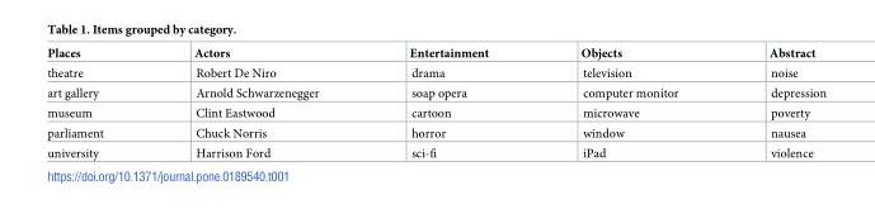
<table><thead><tr><td>Places</td><td>Actors</td><td>Entertainment</td><td>Objects</td><td>Abstract</td></tr></thead><tbody><tr><td>theatre</td><td>Robert De Niro</td><td>drama</td><td>television</td><td>noise</td></tr><tr><td>art gallery</td><td>Arnold Schwarzenegger</td><td>soap opera</td><td>computer monitor</td><td>depression</td></tr><tr><td>museum</td><td>Clint Eastwood</td><td>cartoon</td><td>microwave</td><td>poverty</td></tr><tr><td>parliament</td><td>Chuck Norris</td><td>horror</td><td>window</td><td>nausea</td></tr><tr><td>university</td><td>Harrison Ford</td><td>sci-fi</td><td>iPad</td><td>violence</td></tr></tbody></table>